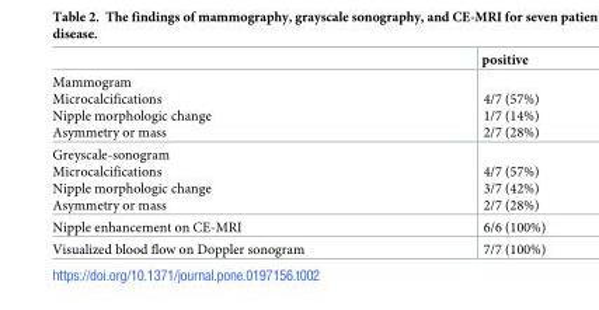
<table><thead><tr><td></td><td>positive</td></tr></thead><tbody><tr><td>Mammogram Microcalcifications Nipple morphologic change Asymmetry or mass</td><td>4/7 (57%) 1/7 (14%) 2/7 (28%)</td></tr><tr><td>Greyscale-sonogram Microcalcifications Nipple morphologic change Asymmetry or mass</td><td>4/7 (57%) 3/7 (42%) 2/7 (28%)</td></tr><tr><td>Nipple enhancement on CE-MRI</td><td>6/6 (100%)</td></tr><tr><td>Visualized blood flow on Doppler sonogram</td><td>7/7 (100%)</td></tr></tbody></table>